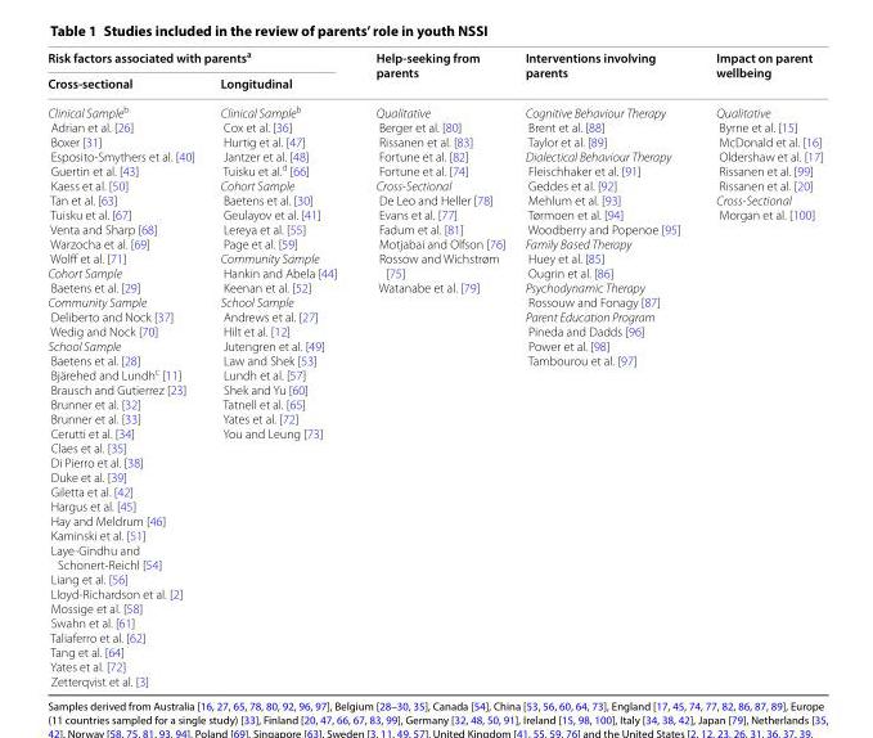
<table><thead><tr><td colspan="2">Risk factors associated with parents<sup>a</sup></td><td rowspan="2">Help‑seeking from parents</td><td rowspan="2">Interventions involving parents</td><td rowspan="2">Impact on parent wellbeing</td></tr><tr><td>Cross‑sectional</td><td>Longitudinal</td></tr></thead><tbody><tr><td>Clinical Sample<sup>b</sup> Adrian et al. [26] Boxer [31] Esposito-Smythers et al. [40] Guertin et al. [43] Kaess et al. [50] Tan et al. [63] Tuisku et al. [67] Venta and Sharp [68] Warzocha et al. [69] Wolff et al. [71] Cohort Sample Baetens et al. [29] Community Sample Deliberto and Nock [37] Wedig and Nock [70] School Sample Baetens et al. [28] Bjärehed and Lundh<sup>c</sup> [11] Brausch and Gutierrez [23] Brunner et al. [32] Brunner et al. [33] Cerutti et al. [34] Claes et al. [35] Di Pierro et al. [38] Duke et al. [39] Giletta et al. [42] Hargus et al. [45] Hay and Meldrum [46] Kaminski et al. [51] Laye-Gindhu and Schonert-Reichl [54] Liang et al. [56] Lloyd-Richardson et al. [2] Mossige et al. [58] Swahn et al. [61] Taliaferro et al. [62] Tang et al. [64] Yates et al. [72] Zetterqvist et al. [3]</td><td>Clinical Sample<sup>b</sup> Cox et al. [36] Hurtig et al. [47] Jantzer et al. [48] Tuisku et al.<sup>d</sup> [66] Cohort Sample Baetens et al. [30] Geulayov et al. [41] Lereya et al. [55] Page et al. [59] Community Sample Hankin and Abela [44] Keenan et al. [52] School Sample Andrews et al. [27] Hilt et al. [12] Jutengren et al. [49] Law and Shek [53] Lundh et al. [57] Shek and Yu [60] Tatnell et al. [65] Yates et al. [72] You and Leung [73]</td><td>Qualitative Berger et al. [80] Rissanen et al. [83] Fortune et al. [82] Fortune et al. [74] Cross-Sectional De Leo and Heller [78] Evans et al. [77] Fadum et al. [81] Motjabai and Olfson [76] Rossow and Wichstrøm [75] Watanabe et al. [79]</td><td>Cognitive Behaviour Therapy Brent et al. [88] Taylor et al. [89] Dialectical Behaviour Therapy Fleischhaker et al. [91] Geddes et al. [92] Mehlum et al. [93] Tørmoen et al. [94] Woodberry and Popenoe [95] Family Based Therapy Huey et al. [85] Ougrin et al. [86] Psychodynamic Therapy Rossouw and Fonagy [87] Parent Education Program Pineda and Dadds [96] Power et al. [98] Tambourou et al. [97]</td><td>Qualitative Byrne et al. [15] McDonald et al. [16] Oldershaw et al. [17] Rissanen et al. [99] Rissanen et al. [20] Cross-Sectional Morgan et al. [100]</td></tr></tbody></table>